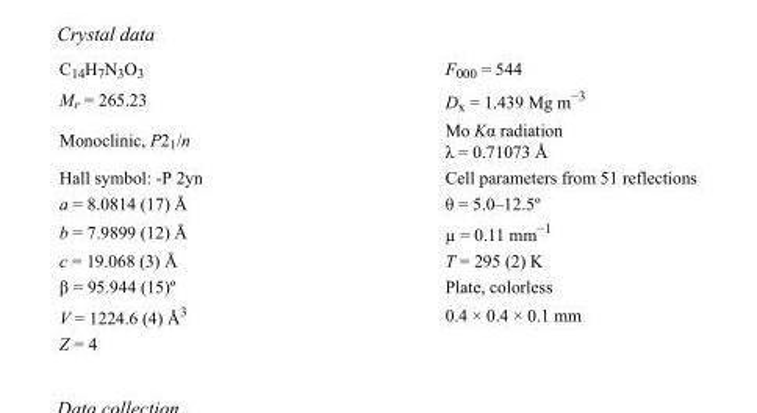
<table><tbody><tr><td>C<sub>14</sub>H<sub>7</sub>N<sub>3</sub>O<sub>3</sub></td><td>F<sub>000</sub> = 544</td></tr><tr><td>M<sub>r</sub> = 265.23</td><td>D<sub>x</sub> = 1.439 Mg m<sup>−3</sup></td></tr><tr><td>Monoclinic, P2<sub>1</sub>/n</td><td>Mo Kα radiation λ = 0.71073 Å</td></tr><tr><td>Hall symbol: -P 2yn</td><td>Cell parameters from 51 reflections</td></tr><tr><td>a = 8.0814 (17) Å</td><td>θ = 5.0–12.5º</td></tr><tr><td>b = 7.9899 (12) Å</td><td>µ = 0.11 mm<sup>−1</sup></td></tr><tr><td>c = 19.068 (3) Å</td><td>T = 295 (2) K</td></tr><tr><td>β = 95.944 (15)º</td><td>Plate, colorless</td></tr><tr><td>V = 1224.6 (4) Å<sup>3</sup></td><td>0.4 × 0.4 × 0.1 mm</td></tr><tr><td>Z = 4</td><td></td></tr></tbody></table>